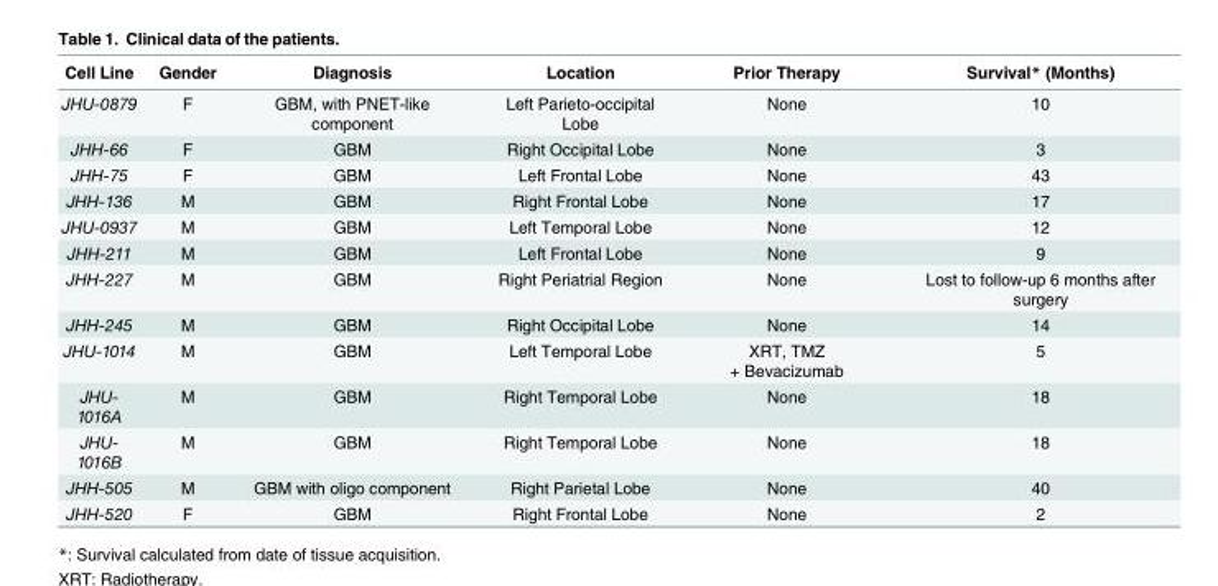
<table><thead><tr><td>Cell Line</td><td>Gender</td><td>Diagnosis</td><td>Location</td><td>Prior Therapy</td><td>Survival* (Months)</td></tr></thead><tbody><tr><td>JHU-0879</td><td>F</td><td>GBM, with PNET-like component</td><td>Left Parieto-occipital Lobe</td><td>None</td><td>10</td></tr><tr><td>JHH-66</td><td>F</td><td>GBM</td><td>Right Occipital Lobe</td><td>None</td><td>3</td></tr><tr><td>JHH-75</td><td>F</td><td>GBM</td><td>Left Frontal Lobe</td><td>None</td><td>43</td></tr><tr><td>JHH-136</td><td>M</td><td>GBM</td><td>Right Frontal Lobe</td><td>None</td><td>17</td></tr><tr><td>JHU-0937</td><td>M</td><td>GBM</td><td>Left Temporal Lobe</td><td>None</td><td>12</td></tr><tr><td>JHH-211</td><td>M</td><td>GBM</td><td>Left Frontal Lobe</td><td>None</td><td>9</td></tr><tr><td>JHH-227</td><td>M</td><td>GBM</td><td>Right Periatrial Region</td><td>None</td><td>Lost to follow-up 6 months after surgery</td></tr><tr><td>JHH-245</td><td>M</td><td>GBM</td><td>Right Occipital Lobe</td><td>None</td><td>14</td></tr><tr><td>JHU-1014</td><td>M</td><td>GBM</td><td>Left Temporal Lobe</td><td>XRT, TMZ + Bevacizumab</td><td>5</td></tr><tr><td>JHU- 1016A</td><td>M</td><td>GBM</td><td>Right Temporal Lobe</td><td>None</td><td>18</td></tr><tr><td>JHU- 1016B</td><td>M</td><td>GBM</td><td>Right Temporal Lobe</td><td>None</td><td>18</td></tr><tr><td>JHH-505</td><td>M</td><td>GBM with oligo component</td><td>Right Parietal Lobe</td><td>None</td><td>40</td></tr><tr><td>JHH-520</td><td>F</td><td>GBM</td><td>Right Frontal Lobe</td><td>None</td><td>2</td></tr></tbody></table>